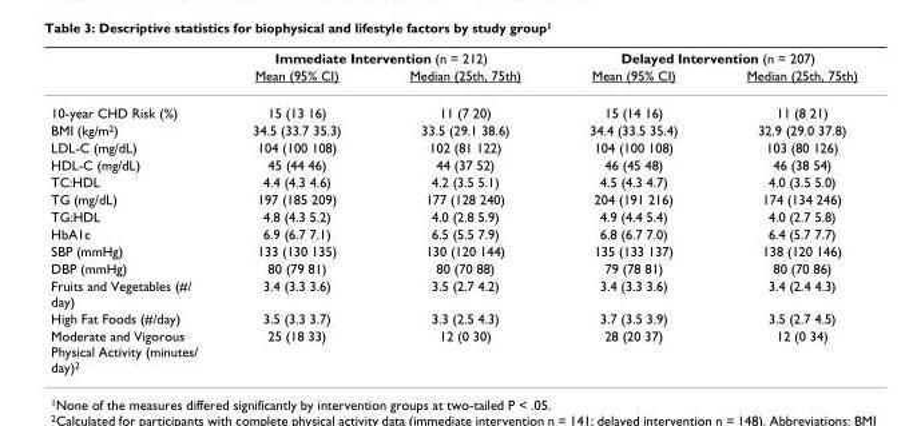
<table><thead><tr><td rowspan="2"></td><td colspan="2">Immediate Intervention (n = 212)</td><td colspan="2">Delayed Intervention (n = 207)</td></tr><tr><td>Mean (95% CI)</td><td>Median (25th, 75th)</td><td>Mean (95% CI)</td><td>Median (25th, 75th)</td></tr></thead><tbody><tr><td>10-year CHD Risk (%)</td><td>15 (13 16)</td><td>11 (7 20)</td><td>15 (14 16)</td><td>11 (8 21)</td></tr><tr><td>BMI (kg/m<sup>2</sup>)</td><td>34.5 (33.7 35.3)</td><td>33.5 (29.1 38.6)</td><td>34.4 (33.5 35.4)</td><td>32.9 (29.0 37.8)</td></tr><tr><td>LDL-C (mg/dL)</td><td>104 (100 108)</td><td>102 (81 122)</td><td>104 (100 108)</td><td>103 (80 126)</td></tr><tr><td>HDL-C (mg/dL)</td><td>45 (44 46)</td><td>44 (37 52)</td><td>46 (45 48)</td><td>46 (38 54)</td></tr><tr><td>TC:HDL</td><td>4.4 (4.3 4.6)</td><td>4.2 (3.5 5.1)</td><td>4.5 (4.3 4.7)</td><td>4.0 (3.5 5.0)</td></tr><tr><td>TG (mg/dL)</td><td>197 (185 209)</td><td>177 (128 240)</td><td>204 (191 216)</td><td>174 (134 246)</td></tr><tr><td>TG:HDL</td><td>4.8 (4.3 5.2)</td><td>4.0 (2.8 5.9)</td><td>4.9 (4.4 5.4)</td><td>4.0 (2.7 5.8)</td></tr><tr><td>HbA1c</td><td>6.9 (6.7 7.1)</td><td>6.5 (5.5 7.9)</td><td>6.8 (6.7 7.0)</td><td>6.4 (5.7 7.7)</td></tr><tr><td>SBP (mmHg)</td><td>133 (130 135)</td><td>130 (120 144)</td><td>135 (133 137)</td><td>138 (120 146)</td></tr><tr><td>DBP (mmHg)</td><td>80 (79 81)</td><td>80 (70 88)</td><td>79 (78 81)</td><td>80 (70 86)</td></tr><tr><td>Fruits and Vegetables (#/ day)</td><td>3.4 (3.3 3.6)</td><td>3.5 (2.7 4.2)</td><td>3.4 (3.3 3.6)</td><td>3.4 (2.4 4.3)</td></tr><tr><td>High Fat Foods (#/day)</td><td>3.5 (3.3 3.7)</td><td>3.3 (2.5 4.3)</td><td>3.7 (3.5 3.9)</td><td>3.5 (2.7 4.5)</td></tr><tr><td>Moderate and Vigorous Physical Activity (minutes/ day)<sup>2</sup></td><td>25 (18 33)</td><td>12 (0 30)</td><td>28 (20 37)</td><td>12 (0 34)</td></tr></tbody></table>